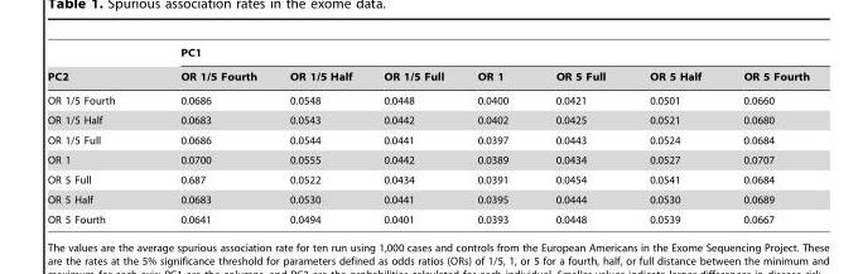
<table><thead><tr><td rowspan="2">PC2</td><td colspan="7">PC1</td></tr><tr><td>OR 1/5 Fourth</td><td>OR 1/5 Half</td><td>OR 1/5 Full</td><td>OR 1</td><td>OR 5 Full</td><td>OR 5 Half</td><td>OR 5 Fourth</td></tr></thead><tbody><tr><td>OR 1/5 Fourth</td><td>0.0686</td><td>0.0548</td><td>0.0448</td><td>0.0400</td><td>0.0421</td><td>0.0501</td><td>0.0660</td></tr><tr><td>OR 1/5 Half</td><td>0.0683</td><td>0.0543</td><td>0.0442</td><td>0.0402</td><td>0.0425</td><td>0.0521</td><td>0.0680</td></tr><tr><td>OR 1/5 Full</td><td>0.0686</td><td>0.0544</td><td>0.0441</td><td>0.0397</td><td>0.0443</td><td>0.0524</td><td>0.0684</td></tr><tr><td>OR 1</td><td>0.0700</td><td>0.0555</td><td>0.0442</td><td>0.0389</td><td>0.0434</td><td>0.0527</td><td>0.0707</td></tr><tr><td>OR 5 Full</td><td>0.687</td><td>0.0522</td><td>0.0434</td><td>0.0391</td><td>0.0454</td><td>0.0541</td><td>0.0684</td></tr><tr><td>OR 5 Half</td><td>0.0683</td><td>0.0530</td><td>0.0441</td><td>0.0395</td><td>0.0444</td><td>0.0530</td><td>0.0689</td></tr><tr><td>OR 5 Fourth</td><td>0.0641</td><td>0.0494</td><td>0.0401</td><td>0.0393</td><td>0.0448</td><td>0.0539</td><td>0.0667</td></tr></tbody></table>